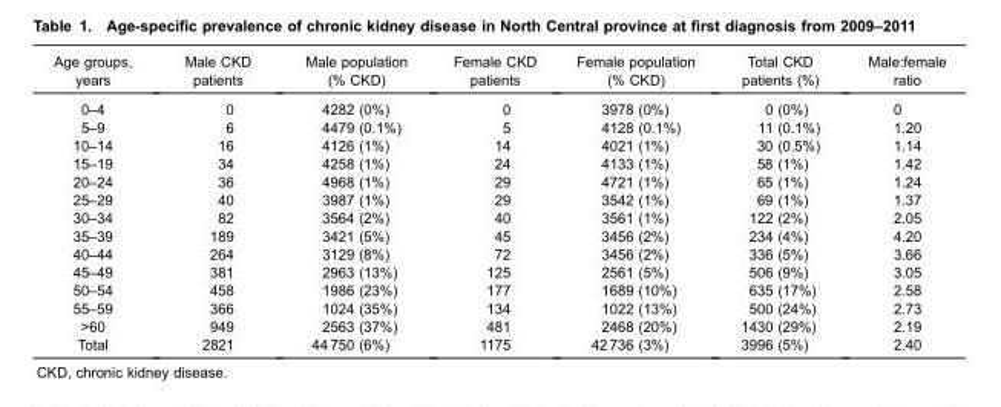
<table><thead><tr><td>Age groups, years</td><td>Male CKD patients</td><td>Male population (% CKD)</td><td>Female CKD patients</td><td>Female population (% CKD)</td><td>Total CKD patients (%)</td><td>Male:female ratio</td></tr></thead><tbody><tr><td>0–4</td><td>0</td><td>4282 (0%)</td><td>0</td><td>3978 (0%)</td><td>0 (0%)</td><td>0</td></tr><tr><td>5–9</td><td>6</td><td>4479 (0.1%)</td><td>5</td><td>4128 (0.1%)</td><td>11 (0.1%)</td><td>1.20</td></tr><tr><td>10–14</td><td>16</td><td>4126 (1%)</td><td>14</td><td>4021 (1%)</td><td>30 (0.5%)</td><td>1.14</td></tr><tr><td>15–19</td><td>34</td><td>4258 (1%)</td><td>24</td><td>4133 (1%)</td><td>58 (1%)</td><td>1.42</td></tr><tr><td>20–24</td><td>36</td><td>4968 (1%)</td><td>29</td><td>4721 (1%)</td><td>65 (1%)</td><td>1.24</td></tr><tr><td>25–29</td><td>40</td><td>3987 (1%)</td><td>29</td><td>3542 (1%)</td><td>69 (1%)</td><td>1.37</td></tr><tr><td>30–34</td><td>82</td><td>3564 (2%)</td><td>40</td><td>3561 (1%)</td><td>122 (2%)</td><td>2.05</td></tr><tr><td>35–39</td><td>189</td><td>3421 (5%)</td><td>45</td><td>3456 (2%)</td><td>234 (4%)</td><td>4.20</td></tr><tr><td>40–44</td><td>264</td><td>3129 (8%)</td><td>72</td><td>3456 (2%)</td><td>336 (5%)</td><td>3.66</td></tr><tr><td>45–49</td><td>381</td><td>2963 (13%)</td><td>125</td><td>2561 (5%)</td><td>506 (9%)</td><td>3.05</td></tr><tr><td>50–54</td><td>458</td><td>1986 (23%)</td><td>177</td><td>1689 (10%)</td><td>635 (17%)</td><td>2.58</td></tr><tr><td>55–59</td><td>366</td><td>1024 (35%)</td><td>134</td><td>1022 (13%)</td><td>500 (24%)</td><td>2.73</td></tr><tr><td>&gt;60</td><td>949</td><td>2563 (37%)</td><td>481</td><td>2468 (20%)</td><td>1430 (29%)</td><td>2.19</td></tr><tr><td>Total</td><td>2821</td><td>44 750 (6%)</td><td>1175</td><td>42 736 (3%)</td><td>3996 (5%)</td><td>2.40</td></tr></tbody></table>